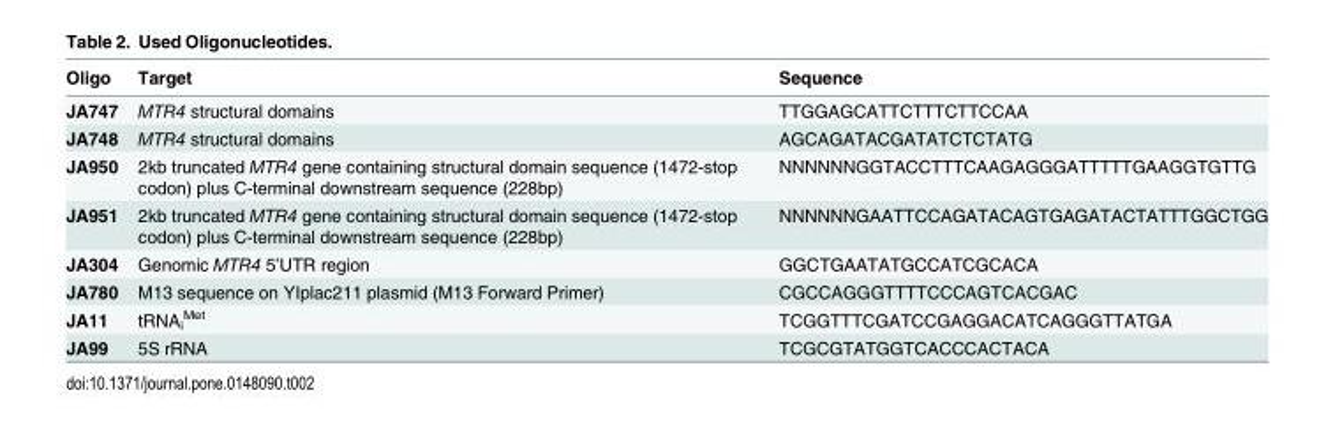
<table><thead><tr><td>Oligo</td><td>Target</td><td>Sequence</td></tr></thead><tbody><tr><td>JA747</td><td>MTR4 structural domains</td><td>TTGGAGCATTCTTTCTTCCAA</td></tr><tr><td>JA748</td><td>MTR4 structural domains</td><td>AGCAGATACGATATCTCTATG</td></tr><tr><td>JA950</td><td>2kb truncated MTR4 gene containing structural domain sequence (1472-stop codon) plus C-terminal downstream sequence (228bp)</td><td>NNNNNNGGTACCTTTCAAGAGGGATTTTTGAAGGTGTTG</td></tr><tr><td>JA951</td><td>2kb truncated MTR4 gene containing structural domain sequence (1472-stop codon) plus C-terminal downstream sequence (228bp)</td><td>NNNNNNGAATTCCAGATACAGTGAGATACTATTTGGCTGG</td></tr><tr><td>JA304</td><td>Genomic MTR4 5’UTR region</td><td>GGCTGAATATGCCATCGCACA</td></tr><tr><td>JA780</td><td>M13 sequence on YIplac211 plasmid (M13 Forward Primer)</td><td>CGCCAGGGTTTTCCCAGTCACGAC</td></tr><tr><td>JA11</td><td>tRNA<sub>i</sub> <sup>Met</sup></td><td>TCGGTTTCGATCCGAGGACATCAGGGTTATGA</td></tr><tr><td>JA99</td><td>5S rRNA</td><td>TCGCGTATGGTCACCCACTACA</td></tr></tbody></table>